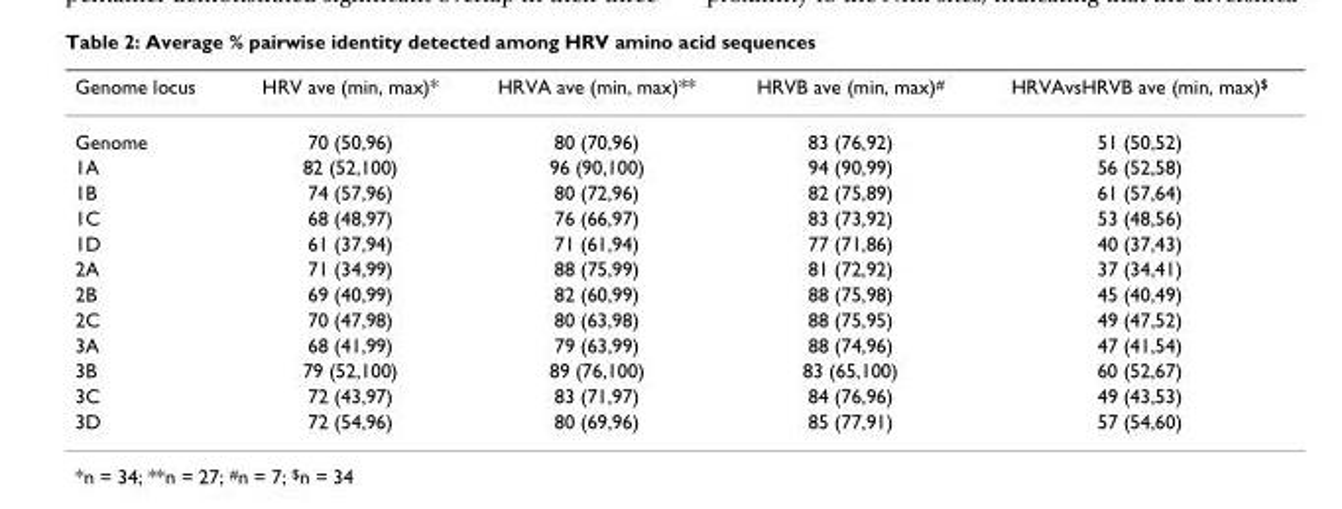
<table><thead><tr><td>Genome locus</td><td>HRV ave (min, max)*</td><td>HRVA ave (min, max)**</td><td>HRVB ave (min, max)<sup>#</sup></td><td>HRVAvsHRVB ave (min, max)<sup>$</sup></td></tr></thead><tbody><tr><td>Genome</td><td>70 (50,96)</td><td>80 (70,96)</td><td>83 (76,92)</td><td>51 (50,52)</td></tr><tr><td>1A</td><td>82 (52,100)</td><td>96 (90,100)</td><td>94 (90,99)</td><td>56 (52,58)</td></tr><tr><td>1B</td><td>74 (57,96)</td><td>80 (72,96)</td><td>82 (75,89)</td><td>61 (57,64)</td></tr><tr><td>1C</td><td>68 (48,97)</td><td>76 (66,97)</td><td>83 (73,92)</td><td>53 (48,56)</td></tr><tr><td>1D</td><td>61 (37,94)</td><td>71 (61,94)</td><td>77 (71,86)</td><td>40 (37,43)</td></tr><tr><td>2A</td><td>71 (34,99)</td><td>88 (75,99)</td><td>81 (72,92)</td><td>37 (34,41)</td></tr><tr><td>2B</td><td>69 (40,99)</td><td>82 (60,99)</td><td>88 (75,98)</td><td>45 (40,49)</td></tr><tr><td>2C</td><td>70 (47,98)</td><td>80 (63,98)</td><td>88 (75,95)</td><td>49 (47,52)</td></tr><tr><td>3A</td><td>68 (41,99)</td><td>79 (63,99)</td><td>88 (74,96)</td><td>47 (41,54)</td></tr><tr><td>3B</td><td>79 (52,100)</td><td>89 (76,100)</td><td>83 (65,100)</td><td>60 (52,67)</td></tr><tr><td>3C</td><td>72 (43,97)</td><td>83 (71,97)</td><td>84 (76,96)</td><td>49 (43,53)</td></tr><tr><td>3D</td><td>72 (54,96)</td><td>80 (69,96)</td><td>85 (77,91)</td><td>57 (54,60)</td></tr></tbody></table>